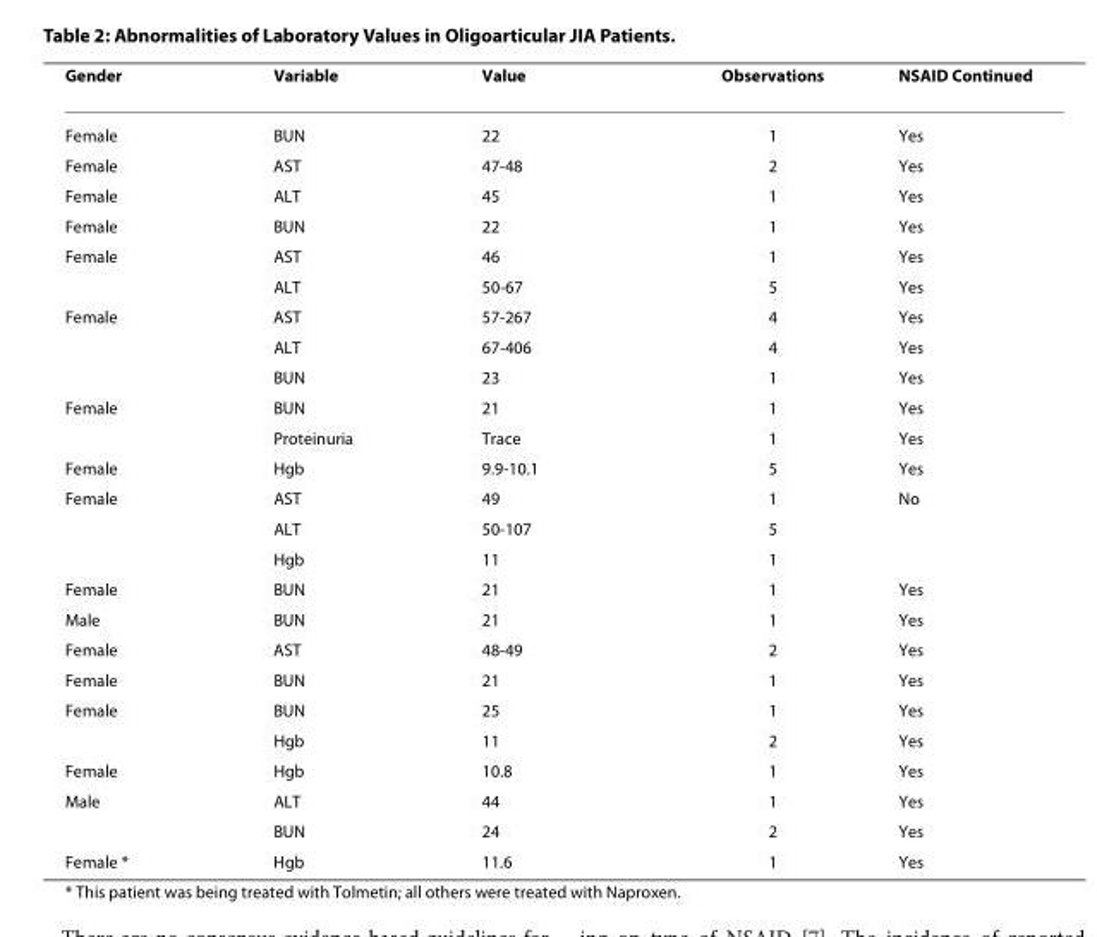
<table><thead><tr><td>Gender</td><td>Variable</td><td>Value</td><td>Observations</td><td>NSAID Continued</td></tr></thead><tbody><tr><td>Female</td><td>BUN</td><td>22</td><td>1</td><td>Yes</td></tr><tr><td>Female</td><td>AST</td><td>47-48</td><td>2</td><td>Yes</td></tr><tr><td>Female</td><td>ALT</td><td>45</td><td>1</td><td>Yes</td></tr><tr><td>Female</td><td>BUN</td><td>22</td><td>1</td><td>Yes</td></tr><tr><td rowspan="2">Female</td><td>AST</td><td>46</td><td>1</td><td>Yes</td></tr><tr><td>ALT</td><td>50-67</td><td>5</td><td>Yes</td></tr><tr><td rowspan="3">Female</td><td>AST</td><td>57-267</td><td>4</td><td>Yes</td></tr><tr><td>ALT</td><td>67-406</td><td>4</td><td>Yes</td></tr><tr><td>BUN</td><td>23</td><td>1</td><td>Yes</td></tr><tr><td rowspan="2">Female</td><td>BUN</td><td>21</td><td>1</td><td>Yes</td></tr><tr><td>Proteinuria</td><td>Trace</td><td>1</td><td>Yes</td></tr><tr><td>Female</td><td>Hgb</td><td>9.9-10.1</td><td>5</td><td>Yes</td></tr><tr><td rowspan="3">Female</td><td>AST</td><td>49</td><td>1</td><td>No</td></tr><tr><td>ALT</td><td>50-107</td><td>5</td><td></td></tr><tr><td>Hgb</td><td>11</td><td>1</td><td></td></tr><tr><td>Female</td><td>BUN</td><td>21</td><td>1</td><td>Yes</td></tr><tr><td>Male</td><td>BUN</td><td>21</td><td>1</td><td>Yes</td></tr><tr><td>Female</td><td>AST</td><td>48-49</td><td>2</td><td>Yes</td></tr><tr><td>Female</td><td>BUN</td><td>21</td><td>1</td><td>Yes</td></tr><tr><td rowspan="2">Female</td><td>BUN</td><td>25</td><td>1</td><td>Yes</td></tr><tr><td>Hgb</td><td>11</td><td>2</td><td>Yes</td></tr><tr><td>Female</td><td>Hgb</td><td>10.8</td><td>1</td><td>Yes</td></tr><tr><td rowspan="2">Male</td><td>ALT</td><td>44</td><td>1</td><td>Yes</td></tr><tr><td>BUN</td><td>24</td><td>2</td><td>Yes</td></tr><tr><td>Female *</td><td>Hgb</td><td>11.6</td><td>1</td><td>Yes</td></tr></tbody></table>